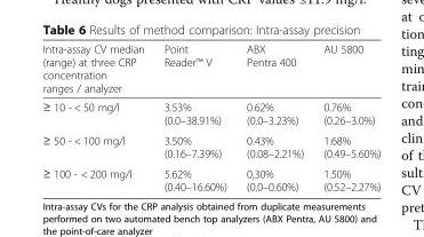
<table><thead><tr><td>Intra-assay CV median (range) at three CRP concentration ranges / analyzer</td><td>Point Reader™ V</td><td>ABX Pentra 400</td><td>AU 5800</td></tr></thead><tbody><tr><td>≥ 10 - &lt; 50 mg/l</td><td>3.53% (0.0–38.91%)</td><td>0.62% (0.0–3.23%)</td><td>0.76% (0.26–3.0%)</td></tr><tr><td>≥ 50 - &lt; 100 mg/l</td><td>3.50% (0.16–7.39%)</td><td>0.43% (0.08–2.21%)</td><td>1.68% (0.49–5.60%)</td></tr><tr><td>≥ 100 - &lt; 200 mg/l</td><td>5.62% (0.40–16.60%)</td><td>0,30% (0.0–0.60%)</td><td>1.50% (0.52–2.27%)</td></tr></tbody></table>